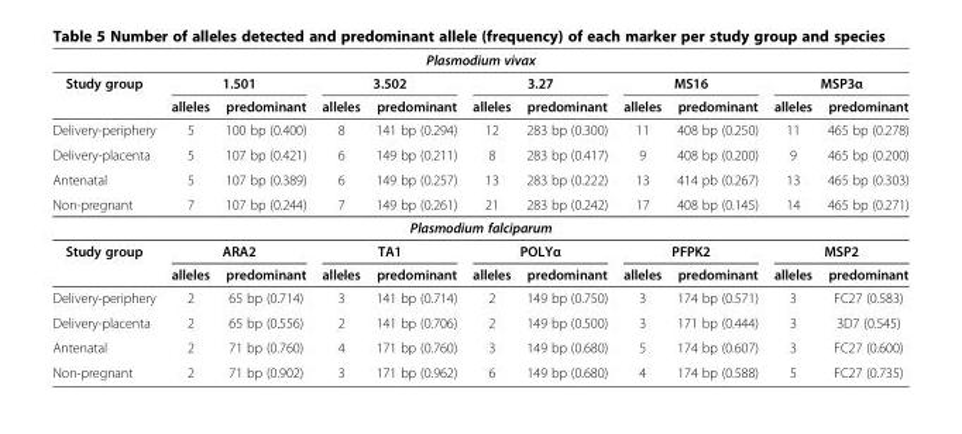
<table><thead><tr><td colspan="11">Plasmodium vivax</td></tr><tr><td rowspan="2">Study group</td><td colspan="2">1.501</td><td colspan="2">3.502</td><td colspan="2">3.27</td><td colspan="2">MS16</td><td colspan="2">MSP3α</td></tr><tr><td>alleles</td><td>predominant</td><td>alleles</td><td>predominant</td><td>alleles</td><td>predominant</td><td>alleles</td><td>predominant</td><td>alleles</td><td>predominant</td></tr></thead><tbody><tr><td>Delivery-periphery</td><td>5</td><td>100 bp (0.400)</td><td>8</td><td>141 bp (0.294)</td><td>12</td><td>283 bp (0.300)</td><td>11</td><td>408 bp (0.250)</td><td>11</td><td>465 bp (0.278)</td></tr><tr><td>Delivery-placenta</td><td>5</td><td>107 bp (0.421)</td><td>6</td><td>149 bp (0.211)</td><td>8</td><td>283 bp (0.417)</td><td>9</td><td>408 bp (0.200)</td><td>9</td><td>465 bp (0.200)</td></tr><tr><td>Antenatal</td><td>5</td><td>107 bp (0.389)</td><td>6</td><td>149 bp (0.257)</td><td>13</td><td>283 bp (0.222)</td><td>13</td><td>414 pb (0.267)</td><td>13</td><td>465 bp (0.303)</td></tr><tr><td>Non-pregnant</td><td>7</td><td>107 bp (0.244)</td><td>7</td><td>149 bp (0.261)</td><td>21</td><td>283 bp (0.242)</td><td>17</td><td>408 bp (0.145)</td><td>14</td><td>465 bp (0.271)</td></tr><tr><td colspan="11">Plasmodium falciparum</td></tr><tr><td rowspan="2">Study group</td><td colspan="2">ARA2</td><td colspan="2">TA1</td><td colspan="2">POLYα</td><td colspan="2">PFPK2</td><td colspan="2">MSP2</td></tr><tr><td>alleles</td><td>predominant</td><td>alleles</td><td>predominant</td><td>alleles</td><td>predominant</td><td>alleles</td><td>predominant</td><td>alleles</td><td>predominant</td></tr><tr><td>Delivery-periphery</td><td>2</td><td>65 bp (0.714)</td><td>3</td><td>141 bp (0.714)</td><td>2</td><td>149 bp (0.750)</td><td>3</td><td>174 bp (0.571)</td><td>3</td><td>FC27 (0.583)</td></tr><tr><td>Delivery-placenta</td><td>2</td><td>65 bp (0.556)</td><td>2</td><td>141 bp (0.706)</td><td>2</td><td>149 bp (0.500)</td><td>3</td><td>171 bp (0.444)</td><td>3</td><td>3D7 (0.545)</td></tr><tr><td>Antenatal</td><td>2</td><td>71 bp (0.760)</td><td>4</td><td>171 bp (0.760)</td><td>3</td><td>149 bp (0.680)</td><td>5</td><td>174 bp (0.607)</td><td>3</td><td>FC27 (0.600)</td></tr><tr><td>Non-pregnant</td><td>2</td><td>71 bp (0.902)</td><td>3</td><td>171 bp (0.962)</td><td>6</td><td>149 bp (0.680)</td><td>4</td><td>174 bp (0.588)</td><td>5</td><td>FC27 (0.735)</td></tr></tbody></table>